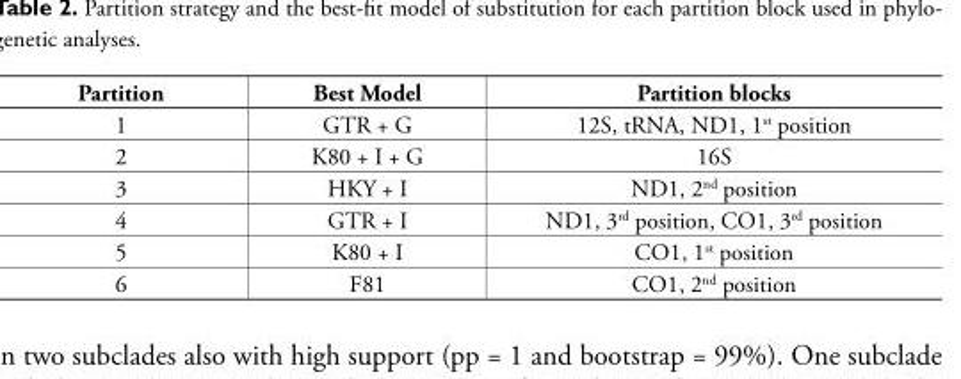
<table><tbody><tr><td>Partition</td><td>Best Model</td><td>Partition blocks</td></tr><tr><td>1</td><td>GTR + G</td><td>12S, tRNA, ND1, 1<sup>st</sup> position</td></tr><tr><td>2</td><td>K80 + I + G</td><td>16S</td></tr><tr><td>3</td><td>HKY + I</td><td>ND1, 2<sup>nd</sup> position</td></tr><tr><td>4</td><td>GTR + I</td><td>ND1, 3<sup>rd</sup> position, CO1, 3<sup>rd</sup> position</td></tr><tr><td>5</td><td>K80 + I</td><td>CO1, 1<sup>st</sup> position</td></tr><tr><td>6</td><td>F81</td><td>CO1, 2<sup>nd</sup> position</td></tr></tbody></table>